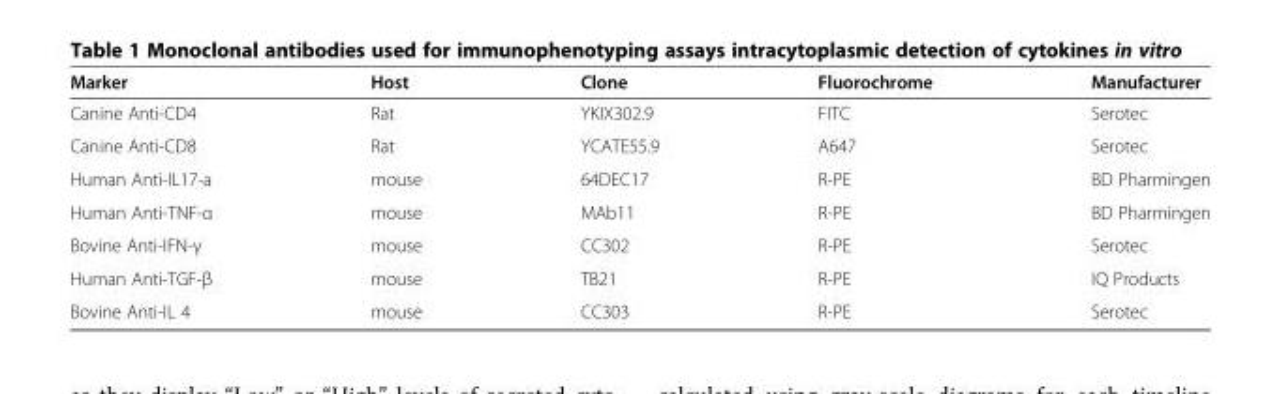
<table><thead><tr><td>Marker</td><td>Host</td><td>Clone</td><td>Fluorochrome</td><td>Manufacturer</td></tr></thead><tbody><tr><td>Canine Anti-CD4</td><td>Rat</td><td>YKIX302.9</td><td>FITC</td><td>Serotec</td></tr><tr><td>Canine Anti-CD8</td><td>Rat</td><td>YCATE55.9</td><td>A647</td><td>Serotec</td></tr><tr><td>Human Anti-IL17-a</td><td>mouse</td><td>64DEC17</td><td>R-PE</td><td>BD Pharmingen</td></tr><tr><td>Human Anti-TNF-α</td><td>mouse</td><td>MAb11</td><td>R-PE</td><td>BD Pharmingen</td></tr><tr><td>Bovine Anti-IFN-γ</td><td>mouse</td><td>CC302</td><td>R-PE</td><td>Serotec</td></tr><tr><td>Human Anti-TGF-β</td><td>mouse</td><td>TB21</td><td>R-PE</td><td>IQ Products</td></tr><tr><td>Bovine Anti-IL 4</td><td>mouse</td><td>CC303</td><td>R-PE</td><td>Serotec</td></tr></tbody></table>